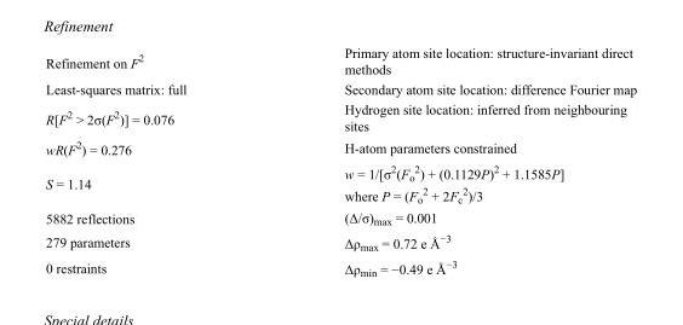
<table><tbody><tr><td>Refinement on F<sup>2</sup></td><td>Primary atom site location: structure-invariant direct methods</td></tr><tr><td>Least-squares matrix: full</td><td>Secondary atom site location: difference Fourier map</td></tr><tr><td>R[F<sup>2</sup> &gt; 2σ(F<sup>2</sup>)] = 0.076</td><td>Hydrogen site location: inferred from neighbouring sites</td></tr><tr><td>wR(F<sup>2</sup>) = 0.276</td><td>H-atom parameters constrained</td></tr><tr><td>S = 1.14</td><td>w = 1/[σ<sup>2</sup>(F<sub>o</sub> <sup>2</sup>) + (0.1129P)<sup>2</sup> + 1.1585P] where P = (F<sub>o</sub> <sup>2</sup> + 2F<sub>c</sub> <sup>2</sup>)/3</td></tr><tr><td>5882 reflections</td><td>(Δ/σ)<sub>max</sub> = 0.001</td></tr><tr><td>279 parameters</td><td>Δρ<sub>max</sub> = 0.72 e Å<sup>−3</sup></td></tr><tr><td>0 restraints</td><td>Δρ<sub>min</sub> = −0.49 e Å<sup>−3</sup></td></tr></tbody></table>